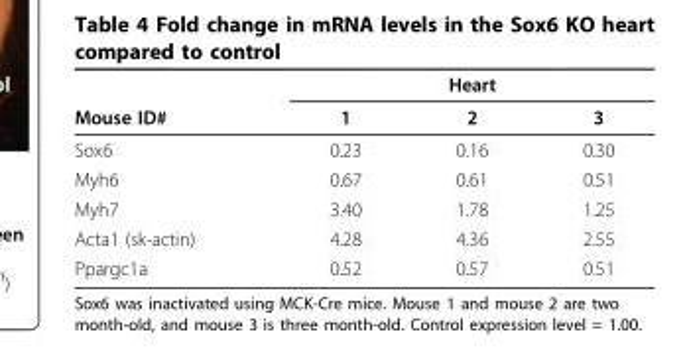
<table><thead><tr><td rowspan="2">Mouse ID#</td><td colspan="3">Heart</td></tr><tr><td>1</td><td>2</td><td>3</td></tr></thead><tbody><tr><td>Sox6</td><td>0.23</td><td>0.16</td><td>0.30</td></tr><tr><td>Myh6</td><td>0.67</td><td>0.61</td><td>0.51</td></tr><tr><td>Myh7</td><td>3.40</td><td>1.78</td><td>1.25</td></tr><tr><td>Acta1 (sk-actin)</td><td>4.28</td><td>4.36</td><td>2.55</td></tr><tr><td>Ppargc1a</td><td>0.52</td><td>0.57</td><td>0.51</td></tr></tbody></table>